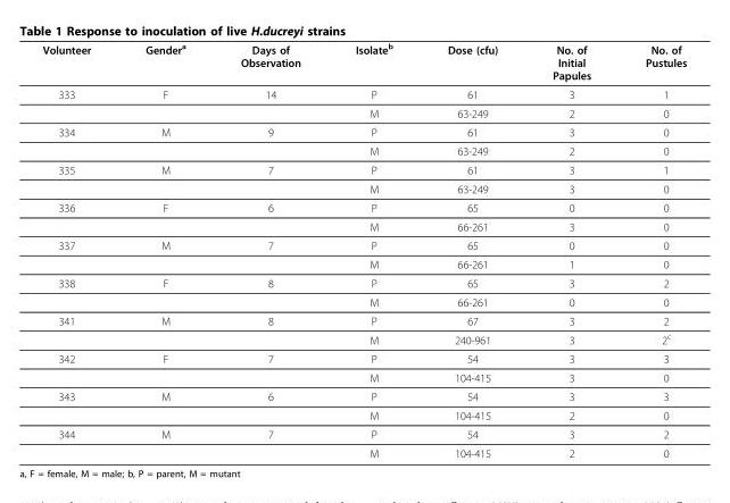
<table><thead><tr><td>Volunteer</td><td>Gender<sup>a</sup></td><td>Days of Observation</td><td>Isolate<sup>b</sup></td><td>Dose (cfu)</td><td>No. of Initial Papules</td><td>No. of Pustules</td></tr></thead><tbody><tr><td rowspan="2">333</td><td>F</td><td>14</td><td>P</td><td>61</td><td>3</td><td>1</td></tr><tr><td></td><td></td><td>M</td><td>63-249</td><td>2</td><td>0</td></tr><tr><td rowspan="2">334</td><td>M</td><td>9</td><td>P</td><td>61</td><td>3</td><td>0</td></tr><tr><td></td><td></td><td>M</td><td>63-249</td><td>2</td><td>0</td></tr><tr><td rowspan="2">335</td><td>M</td><td>7</td><td>P</td><td>61</td><td>3</td><td>1</td></tr><tr><td></td><td></td><td>M</td><td>63-249</td><td>3</td><td>0</td></tr><tr><td rowspan="2">336</td><td>F</td><td>6</td><td>P</td><td>65</td><td>0</td><td>0</td></tr><tr><td></td><td></td><td>M</td><td>66-261</td><td>3</td><td>0</td></tr><tr><td rowspan="2">337</td><td>M</td><td>7</td><td>P</td><td>65</td><td>0</td><td>0</td></tr><tr><td></td><td></td><td>M</td><td>66-261</td><td>1</td><td>0</td></tr><tr><td rowspan="2">338</td><td>F</td><td>8</td><td>P</td><td>65</td><td>3</td><td>2</td></tr><tr><td></td><td></td><td>M</td><td>66-261</td><td>0</td><td>0</td></tr><tr><td rowspan="2">341</td><td>M</td><td>8</td><td>P</td><td>67</td><td>3</td><td>2</td></tr><tr><td></td><td></td><td>M</td><td>240-961</td><td>3</td><td>2<sup>c</sup></td></tr><tr><td rowspan="2">342</td><td>F</td><td>7</td><td>P</td><td>54</td><td>3</td><td>3</td></tr><tr><td></td><td></td><td>M</td><td>104-415</td><td>3</td><td>0</td></tr><tr><td rowspan="2">343</td><td>M</td><td>6</td><td>P</td><td>54</td><td>3</td><td>3</td></tr><tr><td></td><td></td><td>M</td><td>104-415</td><td>2</td><td>0</td></tr><tr><td rowspan="2">344</td><td>M</td><td>7</td><td>P</td><td>54</td><td>3</td><td>2</td></tr><tr><td></td><td></td><td>M</td><td>104-415</td><td>2</td><td>0</td></tr></tbody></table>